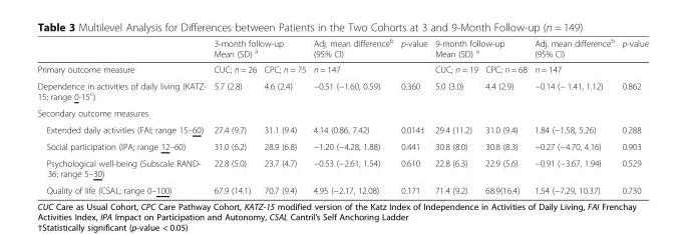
<table><thead><tr><td rowspan="2">Primary outcome measure</td><td colspan="2">3-month follow-up Mean (SD) <sup>a</sup></td><td rowspan="2">Adj. mean difference<sup>b</sup> (95% CI) n = 147</td><td rowspan="2">p-value</td><td colspan="2">9-month follow-up Mean (SD) <sup>a</sup></td><td rowspan="2">Adj. mean difference<sup>b</sup> (95% CI) n = 147</td><td rowspan="2">p-value</td></tr><tr><td>CUC; n = 26</td><td>CPC; n = 75</td><td>CUC; n = 19</td><td>CPC; n = 68</td></tr></thead><tbody><tr><td>Dependence in activities of daily living (KATZ- 15; range 0-15<sup>c</sup>)</td><td>5.7 (2.8)</td><td>4.6 (2.4)</td><td>−0.51 (−1.60, 0.59)</td><td>0.360</td><td>5.0 (3.0)</td><td>4.4 (2.9)</td><td>−0.14 (− 1.41, 1.12)</td><td>0.862</td></tr><tr><td colspan="9">Secondary outcome measures</td></tr><tr><td>Extended daily activities (FAI; range 15–60)</td><td>27.4 (9.7)</td><td>31.1 (9.4)</td><td>4.14 (0.86, 7.42)</td><td>0.014†</td><td>29.4 (11.2)</td><td>31.0 (9.4)</td><td>1.84 (−1.58, 5.26)</td><td>0.288</td></tr><tr><td>Social participation (IPA; range 12–60)</td><td>31.0 (6.2)</td><td>28.9 (6.8)</td><td>−1.20 (−4.28, 1.88)</td><td>0.441</td><td>30.8 (8.0)</td><td>30.8 (8.3)</td><td>−0.27 (−4.70, 4.16)</td><td>0.903</td></tr><tr><td>Psychological well-being (Subscale RAND- 36; range 5–30)</td><td>22.8 (5.0)</td><td>23.7 (4.7)</td><td>−0.53 (−2.61, 1.54)</td><td>0.610</td><td>22.8 (6.3)</td><td>22.9 (5.6)</td><td>−0.91 (−3.67, 1.94)</td><td>0.529</td></tr><tr><td>Quality of life (CSAL; range 0–100)</td><td>67.9 (14.1)</td><td>70.7 (9.4)</td><td>4.95 (−2.17, 12.08)</td><td>0.171</td><td>71.4 (9.2)</td><td>68.9(16.4)</td><td>1.54 (−7.29, 10.37)</td><td>0.730</td></tr></tbody></table>